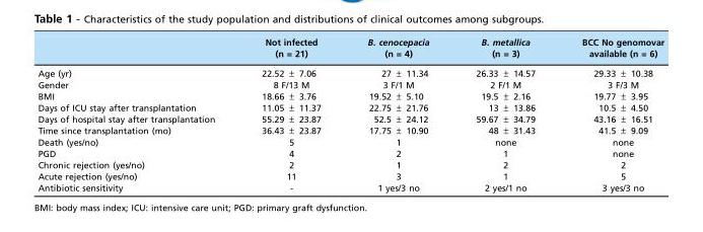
<table><thead><tr><td></td><td>Not infected (n = 21)</td><td>B. cenocepacia (n = 4)</td><td>B. metallica (n = 3)</td><td>BCC No genomovar available (n = 6)</td></tr></thead><tbody><tr><td>Age (yr)</td><td>22.52 ± 7.06</td><td>27 ± 11.34</td><td>26.33 ± 14.57</td><td>29.33 ± 10.38</td></tr><tr><td>Gender</td><td>8 F/13 M</td><td>3 F/1 M</td><td>2 F/1 M</td><td>3 F/3 M</td></tr><tr><td>BMI</td><td>18.66 ± 3.76</td><td>19.52 ± 5.10</td><td>19.5 ± 2.16</td><td>19.77 ± 3.95</td></tr><tr><td>Days of ICU stay after transplantation</td><td>11.05 ± 11.37</td><td>22.75 ± 21.76</td><td>13 ± 13.86</td><td>10.5 ± 4.50</td></tr><tr><td>Days of hospital stay after transplantation</td><td>55.29 ± 23.87</td><td>52.5 ± 24.12</td><td>59.67 ± 34.79</td><td>43.16 ± 16.51</td></tr><tr><td>Time since transplantation (mo)</td><td>36.43 ± 23.87</td><td>17.75 ± 10.90</td><td>48 ± 31.43</td><td>41.5 ± 9.09</td></tr><tr><td>Death (yes/no)</td><td>5</td><td>1</td><td>none</td><td>none</td></tr><tr><td>PGD</td><td>4</td><td>2</td><td>1</td><td>none</td></tr><tr><td>Chronic rejection (yes/no)</td><td>2</td><td>1</td><td>2</td><td>2</td></tr><tr><td>Acute rejection (yes/no)</td><td>11</td><td>3</td><td>1</td><td>5</td></tr><tr><td>Antibiotic sensitivity</td><td>-</td><td>1 yes/3 no</td><td>2 yes/1 no</td><td>3 yes/3 no</td></tr></tbody></table>